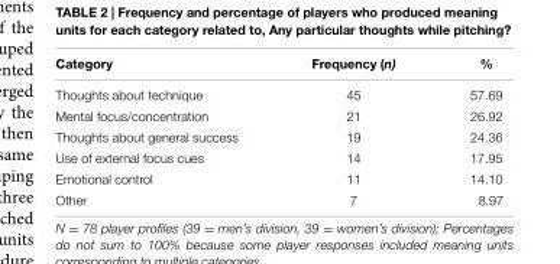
<table><thead><tr><td>Category</td><td>Frequency (n)</td><td>%</td></tr></thead><tbody><tr><td>Thoughts about technique</td><td>45</td><td>57.69</td></tr><tr><td>Mental focus/concentration</td><td>21</td><td>26.92</td></tr><tr><td>Thoughts about general success</td><td>19</td><td>24.36</td></tr><tr><td>Use of external focus cues</td><td>14</td><td>17.95</td></tr><tr><td>Emotional control</td><td>11</td><td>14.10</td></tr><tr><td>Other</td><td>7</td><td>8.97</td></tr></tbody></table>